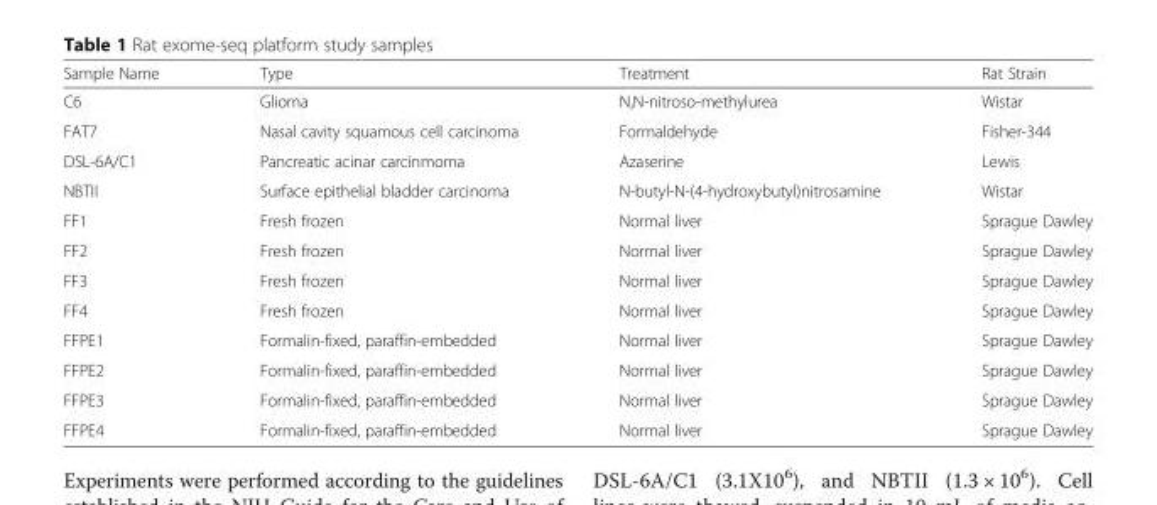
<table><thead><tr><td>Sample Name</td><td>Type</td><td>Treatment</td><td>Rat Strain</td></tr></thead><tbody><tr><td>C6</td><td>Glioma</td><td>N,N-nitroso-methylurea</td><td>Wistar</td></tr><tr><td>FAT7</td><td>Nasal cavity squamous cell carcinoma</td><td>Formaldehyde</td><td>Fisher-344</td></tr><tr><td>DSL-6A/C1</td><td>Pancreatic acinar carcinmoma</td><td>Azaserine</td><td>Lewis</td></tr><tr><td>NBTII</td><td>Surface epithelial bladder carcinoma</td><td>N-butyl-N-(4-hydroxybutyl)nitrosamine</td><td>Wistar</td></tr><tr><td>FF1</td><td>Fresh frozen</td><td>Normal liver</td><td>Sprague Dawley</td></tr><tr><td>FF2</td><td>Fresh frozen</td><td>Normal liver</td><td>Sprague Dawley</td></tr><tr><td>FF3</td><td>Fresh frozen</td><td>Normal liver</td><td>Sprague Dawley</td></tr><tr><td>FF4</td><td>Fresh frozen</td><td>Normal liver</td><td>Sprague Dawley</td></tr><tr><td>FFPE1</td><td>Formalin-fixed, paraffin-embedded</td><td>Normal liver</td><td>Sprague Dawley</td></tr><tr><td>FFPE2</td><td>Formalin-fixed, paraffin-embedded</td><td>Normal liver</td><td>Sprague Dawley</td></tr><tr><td>FFPE3</td><td>Formalin-fixed, paraffin-embedded</td><td>Normal liver</td><td>Sprague Dawley</td></tr><tr><td>FFPE4</td><td>Formalin-fixed, paraffin-embedded</td><td>Normal liver</td><td>Sprague Dawley</td></tr></tbody></table>